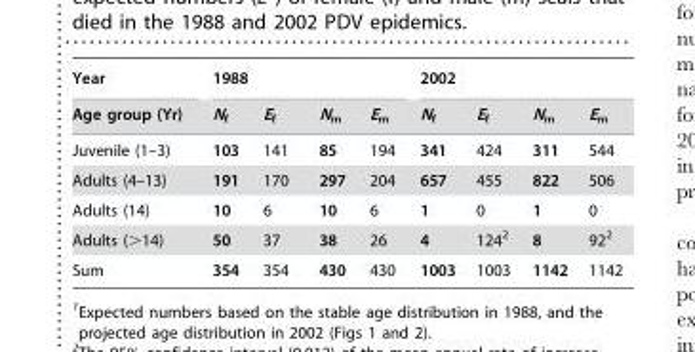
<table><thead><tr><td rowspan="2">Year Age group (Yr)</td><td colspan="4">1988</td><td colspan="4">2002</td></tr><tr><td>N<sub>f</sub></td><td>E<sub>f</sub></td><td>N<sub>m</sub></td><td>E<sub>m</sub></td><td>N<sub>f</sub></td><td>E<sub>f</sub></td><td>N<sub>m</sub></td><td>E<sub>m</sub></td></tr></thead><tbody><tr><td>Juvenile (1–3)</td><td>103</td><td>141</td><td>85</td><td>194</td><td>341</td><td>424</td><td>311</td><td>544</td></tr><tr><td>Adults (4–13)</td><td>191</td><td>170</td><td>297</td><td>204</td><td>657</td><td>455</td><td>822</td><td>506</td></tr><tr><td>Adults (14)</td><td>10</td><td>6</td><td>10</td><td>6</td><td>1</td><td>0</td><td>1</td><td>0</td></tr><tr><td>Adults (&gt;14)</td><td>50</td><td>37</td><td>38</td><td>26</td><td>4</td><td>124<sup>2</sup></td><td>8</td><td>92<sup>2</sup></td></tr><tr><td>Sum</td><td>354</td><td>354</td><td>430</td><td>430</td><td>1003</td><td>1003</td><td>1142</td><td>1142</td></tr></tbody></table>